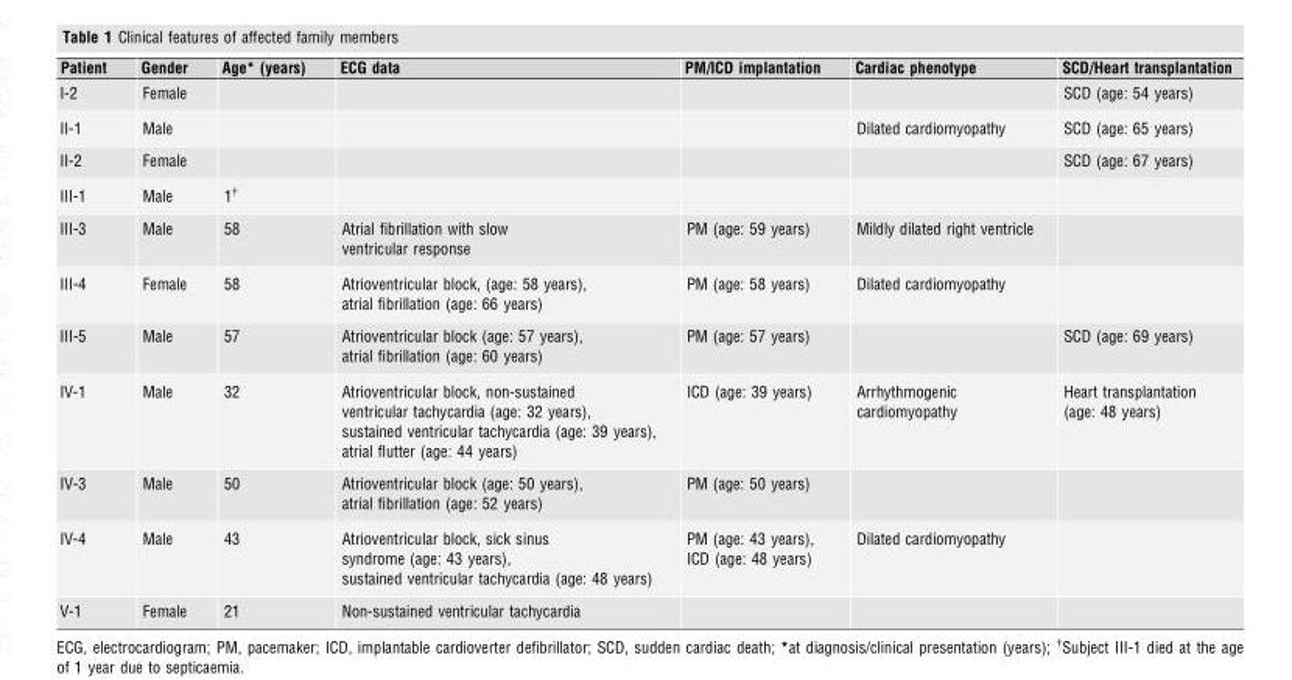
<table><thead><tr><td>Patient</td><td>Gender</td><td>Age* (years)</td><td>ECG data</td><td>PM/ICD implantation</td><td>Cardiac phenotype</td><td>SCD/Heart transplantation</td></tr></thead><tbody><tr><td>I-2</td><td>Female</td><td></td><td></td><td></td><td></td><td>SCD (age: 54 years)</td></tr><tr><td>II-1</td><td>Male</td><td></td><td></td><td></td><td>Dilated cardiomyopathy</td><td>SCD (age: 65 years)</td></tr><tr><td>II-2</td><td>Female</td><td></td><td></td><td></td><td></td><td>SCD (age: 67 years)</td></tr><tr><td>III-1</td><td>Male</td><td>1†</td><td></td><td></td><td></td><td></td></tr><tr><td>III-3</td><td>Male</td><td>58</td><td>Atrial fibrillation with slow ventricular response</td><td>PM (age: 59 years)</td><td>Mildly dilated right ventricle</td><td></td></tr><tr><td>III-4</td><td>Female</td><td>58</td><td>Atrioventricular block, (age: 58 years), atrial fibrillation (age: 66 years)</td><td>PM (age: 58 years)</td><td>Dilated cardiomyopathy</td><td></td></tr><tr><td>III-5</td><td>Male</td><td>57</td><td>Atrioventricular block (age: 57 years), atrial fibrillation (age: 60 years)</td><td>PM (age: 57 years)</td><td></td><td>SCD (age: 69 years)</td></tr><tr><td>IV-1</td><td>Male</td><td>32</td><td>Atrioventricular block, non-sustained ventricular tachycardia (age: 32 years), sustained ventricular tachycardia (age: 39 years), atrial flutter (age: 44 years)</td><td>ICD (age: 39 years)</td><td>Arrhythmogenic cardiomyopathy</td><td>Heart transplantation (age: 48 years)</td></tr><tr><td>IV-3</td><td>Male</td><td>50</td><td>Atrioventricular block (age: 50 years), atrial fibrillation (age: 52 years)</td><td>PM (age: 50 years)</td><td></td><td></td></tr><tr><td>IV-4</td><td>Male</td><td>43</td><td>Atrioventricular block, sick sinus syndrome (age: 43 years), sustained ventricular tachycardia (age: 48 years)</td><td>PM (age: 43 years), ICD (age: 48 years)</td><td>Dilated cardiomyopathy</td><td></td></tr><tr><td>V-1</td><td>Female</td><td>21</td><td>Non-sustained ventricular tachycardia</td><td></td><td></td><td></td></tr></tbody></table>